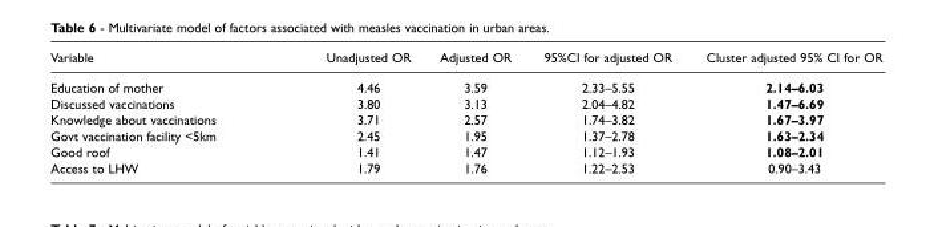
<table><thead><tr><td>Variable</td><td>Unadjusted OR</td><td>Adjusted OR</td><td>95%CI for adjusted OR</td><td>Cluster adjusted 95% CI for OR</td></tr></thead><tbody><tr><td>Education of mother</td><td>4.46</td><td>3.59</td><td>2.33–5.55</td><td>2.14–6.03</td></tr><tr><td>Discussed vaccinations</td><td>3.80</td><td>3.13</td><td>2.04–4.82</td><td>1.47–6.69</td></tr><tr><td>Knowledge about vaccinations</td><td>3.71</td><td>2.57</td><td>1.74–3.82</td><td>1.67–3.97</td></tr><tr><td>Govt vaccination facility &lt;5km</td><td>2.45</td><td>1.95</td><td>1.37–2.78</td><td>1.63–2.34</td></tr><tr><td>Good roof</td><td>1.41</td><td>1.47</td><td>1.12–1.93</td><td>1.08–2.01</td></tr><tr><td>Access to LHW</td><td>1.79</td><td>1.76</td><td>1.22–2.53</td><td>0.90–3.43</td></tr></tbody></table>